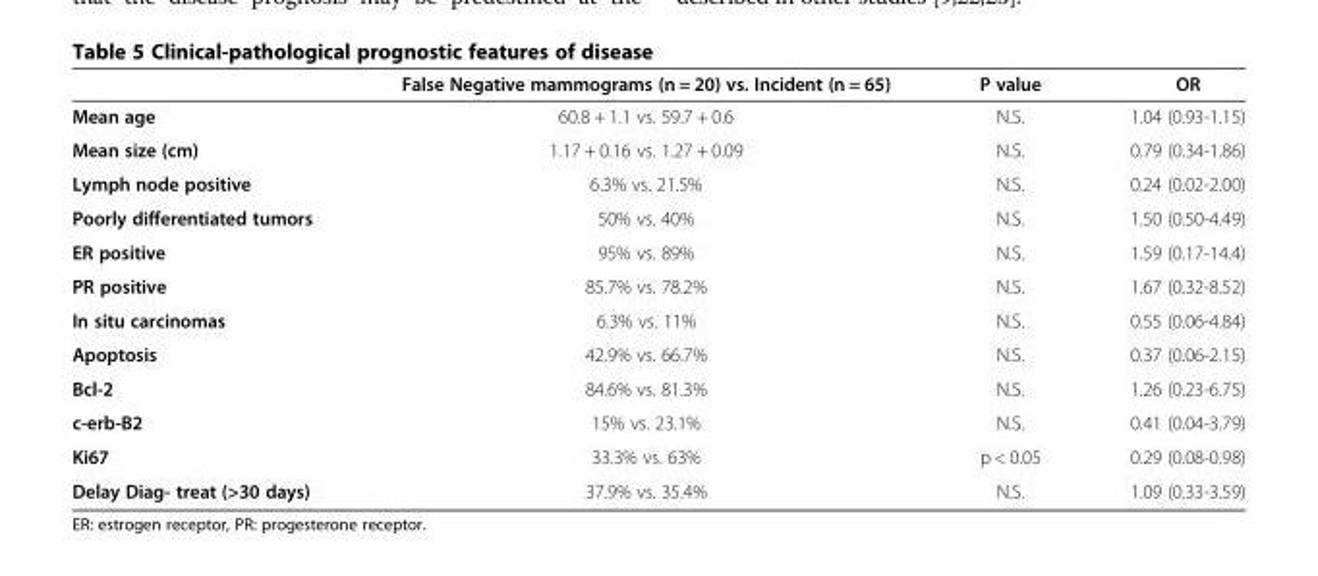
<table><thead><tr><td></td><td>False Negative mammograms (n = 20) vs. Incident (n = 65)</td><td>P value</td><td>OR</td></tr></thead><tbody><tr><td>Mean age</td><td>60.8 + 1.1 vs. 59.7 + 0.6</td><td>N.S.</td><td>1.04 (0.93-1.15)</td></tr><tr><td>Mean size (cm)</td><td>1.17 + 0.16 vs. 1.27 + 0.09</td><td>N.S.</td><td>0.79 (0.34-1.86)</td></tr><tr><td>Lymph node positive</td><td>6.3% vs. 21.5%</td><td>N.S.</td><td>0.24 (0.02-2.00)</td></tr><tr><td>Poorly differentiated tumors</td><td>50% vs. 40%</td><td>N.S.</td><td>1.50 (0.50-4.49)</td></tr><tr><td>ER positive</td><td>95% vs. 89%</td><td>N.S.</td><td>1.59 (0.17-14.4)</td></tr><tr><td>PR positive</td><td>85.7% vs. 78.2%</td><td>N.S.</td><td>1.67 (0.32-8.52)</td></tr><tr><td>In situ carcinomas</td><td>6.3% vs. 11%</td><td>N.S.</td><td>0.55 (0.06-4.84)</td></tr><tr><td>Apoptosis</td><td>42.9% vs. 66.7%</td><td>N.S.</td><td>0.37 (0.06-2.15)</td></tr><tr><td>Bcl-2</td><td>84.6% vs. 81.3%</td><td>N.S.</td><td>1.26 (0.23-6.75)</td></tr><tr><td>c-erb-B2</td><td>15% vs. 23.1%</td><td>N.S.</td><td>0.41 (0.04-3.79)</td></tr><tr><td>Ki67</td><td>33.3% vs. 63%</td><td>p &lt; 0.05</td><td>0.29 (0.08-0.98)</td></tr><tr><td>Delay Diag- treat (&gt;30 days)</td><td>37.9% vs. 35.4%</td><td>N.S.</td><td>1.09 (0.33-3.59)</td></tr></tbody></table>